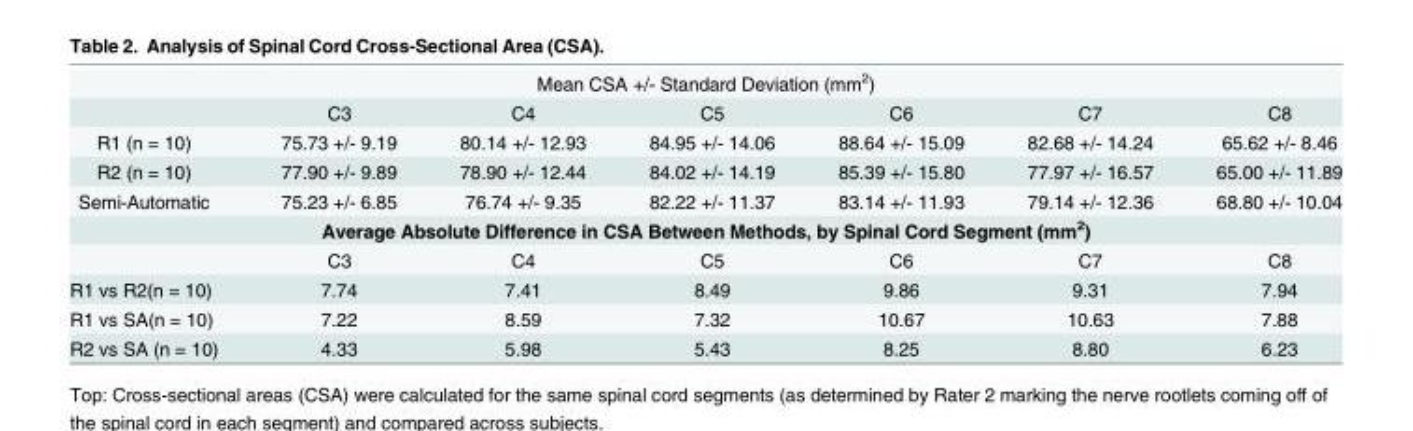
<table><tbody><tr><td colspan="7">Mean CSA +/- Standard Deviation (mm<sup>2</sup>)</td></tr><tr><td></td><td>C3</td><td>C4</td><td>C5</td><td>C6</td><td>C7</td><td>C8</td></tr><tr><td>R1 (n = 10)</td><td>75.73 +/- 9.19</td><td>80.14 +/- 12.93</td><td>84.95 +/- 14.06</td><td>88.64 +/- 15.09</td><td>82.68 +/- 14.24</td><td>65.62 +/- 8.46</td></tr><tr><td>R2 (n = 10)</td><td>77.90 +/- 9.89</td><td>78.90 +/- 12.44</td><td>84.02 +/- 14.19</td><td>85.39 +/- 15.80</td><td>77.97 +/- 16.57</td><td>65.00 +/- 11.89</td></tr><tr><td>Semi-Automatic</td><td>75.23 +/- 6.85</td><td>76.74 +/- 9.35</td><td>82.22 +/- 11.37</td><td>83.14 +/- 11.93</td><td>79.14 +/- 12.36</td><td>68.80 +/- 10.04</td></tr><tr><td colspan="7">Average Absolute Difference in CSA Between Methods, by Spinal Cord Segment (mm<sup>2</sup>)</td></tr><tr><td></td><td>C3</td><td>C4</td><td>C5</td><td>C6</td><td>C7</td><td>C8</td></tr><tr><td>R1 vs R2(n = 10)</td><td>7.74</td><td>7.41</td><td>8.49</td><td>9.86</td><td>9.31</td><td>7.94</td></tr><tr><td>R1 vs SA(n = 10)</td><td>7.22</td><td>8.59</td><td>7.32</td><td>10.67</td><td>10.63</td><td>7.88</td></tr><tr><td>R2 vs SA (n = 10)</td><td>4.33</td><td>5.98</td><td>5.43</td><td>8.25</td><td>8.80</td><td>6.23</td></tr></tbody></table>